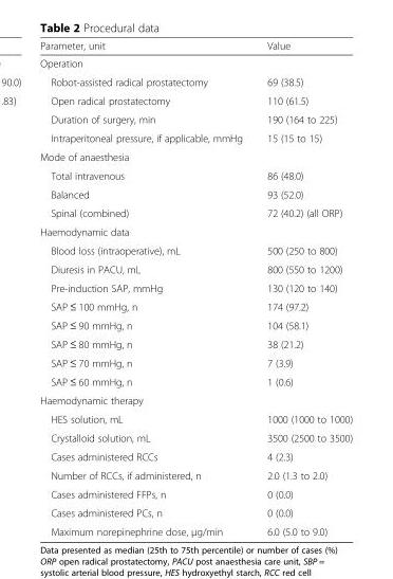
<table><thead><tr><td>Parameter, unit</td><td>Value</td></tr></thead><tbody><tr><td colspan="2">Operation</td></tr><tr><td>Robot-assisted radical prostatectomy</td><td>69 (38.5)</td></tr><tr><td>Open radical prostatectomy</td><td>110 (61.5)</td></tr><tr><td>Duration of surgery, min</td><td>190 (164 to 225)</td></tr><tr><td>Intraperitoneal pressure, if applicable, mmHg</td><td>15 (15 to 15)</td></tr><tr><td colspan="2">Mode of anaesthesia</td></tr><tr><td>Total intravenous</td><td>86 (48.0)</td></tr><tr><td>Balanced</td><td>93 (52.0)</td></tr><tr><td>Spinal (combined)</td><td>72 (40.2) (all ORP)</td></tr><tr><td colspan="2">Haemodynamic data</td></tr><tr><td>Blood loss (intraoperative), mL</td><td>500 (250 to 800)</td></tr><tr><td>Diuresis in PACU, mL</td><td>800 (550 to 1200)</td></tr><tr><td>Pre-induction SAP, mmHg</td><td>130 (120 to 140)</td></tr><tr><td>SAP ≤ 100 mmHg, n</td><td>174 (97.2)</td></tr><tr><td>SAP ≤ 90 mmHg, n</td><td>104 (58.1)</td></tr><tr><td>SAP ≤ 80 mmHg, n</td><td>38 (21.2)</td></tr><tr><td>SAP ≤ 70 mmHg, n</td><td>7 (3.9)</td></tr><tr><td>SAP ≤ 60 mmHg, n</td><td>1 (0.6)</td></tr><tr><td colspan="2">Haemodynamic therapy</td></tr><tr><td>HES solution, mL</td><td>1000 (1000 to 1000)</td></tr><tr><td>Crystalloid solution, mL</td><td>3500 (2500 to 3500)</td></tr><tr><td>Cases administered RCCs</td><td>4 (2.3)</td></tr><tr><td>Number of RCCs, if administered, n</td><td>2.0 (1.3 to 2.0)</td></tr><tr><td>Cases administered FFPs, n</td><td>0 (0.0)</td></tr><tr><td>Cases administered PCs, n</td><td>0 (0.0)</td></tr><tr><td>Maximum norepinephrine dose, μg/min</td><td>6.0 (5.0 to 9.0)</td></tr></tbody></table>